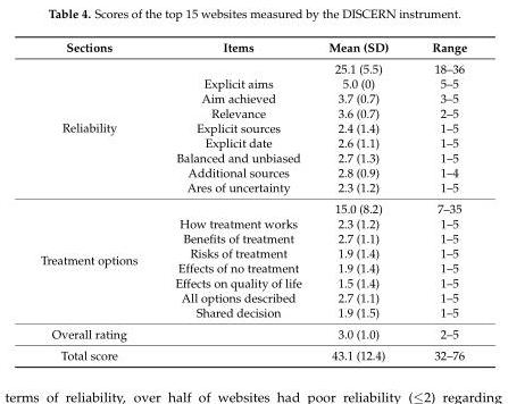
<table><thead><tr><td>Sections</td><td>Items</td><td>Mean (SD)</td><td>Range</td></tr></thead><tbody><tr><td rowspan="9">Reliability</td><td></td><td>25.1 (5.5)</td><td>18–36</td></tr><tr><td>Explicit aims</td><td>5.0 (0)</td><td>5–5</td></tr><tr><td>Aim achieved</td><td>3.7 (0.7)</td><td>3–5</td></tr><tr><td>Relevance</td><td>3.6 (0.7)</td><td>2–5</td></tr><tr><td>Explicit sources</td><td>2.4 (1.4)</td><td>1–5</td></tr><tr><td>Explicit date</td><td>2.6 (1.1)</td><td>1–5</td></tr><tr><td>Balanced and unbiased</td><td>2.7 (1.3)</td><td>1–5</td></tr><tr><td>Additional sources</td><td>2.8 (0.9)</td><td>1–4</td></tr><tr><td>Ares of uncertainty</td><td>2.3 (1.2)</td><td>1–5</td></tr><tr><td rowspan="8">Treatment options</td><td></td><td>15.0 (8.2)</td><td>7–35</td></tr><tr><td>How treatment works</td><td>2.3 (1.2)</td><td>1–5</td></tr><tr><td>Benefits of treatment</td><td>2.7 (1.1)</td><td>1–5</td></tr><tr><td>Risks of treatment</td><td>1.9 (1.4)</td><td>1–5</td></tr><tr><td>Effects of no treatment</td><td>1.9 (1.4)</td><td>1–5</td></tr><tr><td>Effects on quality of life</td><td>1.5 (1.4)</td><td>1–5</td></tr><tr><td>All options described</td><td>2.7 (1.1)</td><td>1–5</td></tr><tr><td>Shared decision</td><td>1.9 (1.5)</td><td>1–5</td></tr><tr><td>Overall rating</td><td></td><td>3.0 (1.0)</td><td>2–5</td></tr><tr><td>Total score</td><td></td><td>43.1 (12.4)</td><td>32–76</td></tr></tbody></table>